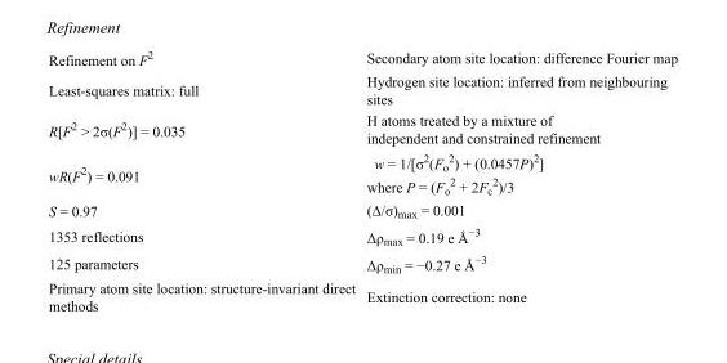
<table><tbody><tr><td>Refinement on F<sup>2</sup></td><td>Secondary atom site location: difference Fourier map</td></tr><tr><td>Least-squares matrix: full</td><td>Hydrogen site location: inferred from neighbouring sites</td></tr><tr><td>R[F<sup>2</sup> &gt; 2σ(F<sup>2</sup>)] = 0.035</td><td>H atoms treated by a mixture of independent and constrained refinement</td></tr><tr><td>wR(F<sup>2</sup>) = 0.091</td><td>w = 1/[σ<sup>2</sup>(F<sub>o</sub> <sup>2</sup>) + (0.0457P)<sup>2</sup>] where P = (F<sub>o</sub> <sup>2</sup> + 2F<sub>c</sub> <sup>2</sup>)/3</td></tr><tr><td>S = 0.97</td><td>(Δ/σ)<sub>max</sub> = 0.001</td></tr><tr><td>1353 reflections</td><td>Δρ<sub>max</sub> = 0.19 e Å<sup>−3</sup></td></tr><tr><td>125 parameters</td><td>Δρ<sub>min</sub> = −0.27 e Å<sup>−3</sup></td></tr><tr><td>Primary atom site location: structure-invariant direct methods</td><td>Extinction correction: none</td></tr></tbody></table>